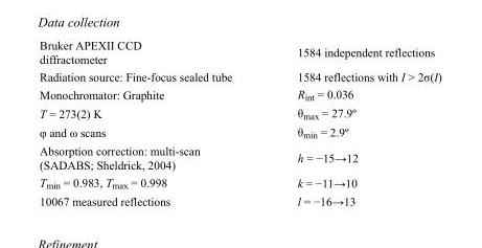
<table><tbody><tr><td>Bruker APEXII CCD diffractometer</td><td>1584 independent reflections</td></tr><tr><td>Radiation source: Fine-focus sealed tube</td><td>1584 reflections with I &gt; 2σ(I)</td></tr><tr><td>Monochromator: Graphite</td><td>R<sub>int</sub> = 0.036</td></tr><tr><td>T = 273(2) K</td><td>θ<sub>max</sub> = 27.9º</td></tr><tr><td>φ and ω scans</td><td>θ<sub>min</sub> = 2.9º</td></tr><tr><td>Absorption correction: multi-scan (SADABS; Sheldrick, 2004)</td><td>h = −15→12</td></tr><tr><td>T<sub>min</sub> = 0.983, T<sub>max</sub> = 0.998</td><td>k = −11→10</td></tr><tr><td>10067 measured reflections</td><td>l = −16→13</td></tr></tbody></table>